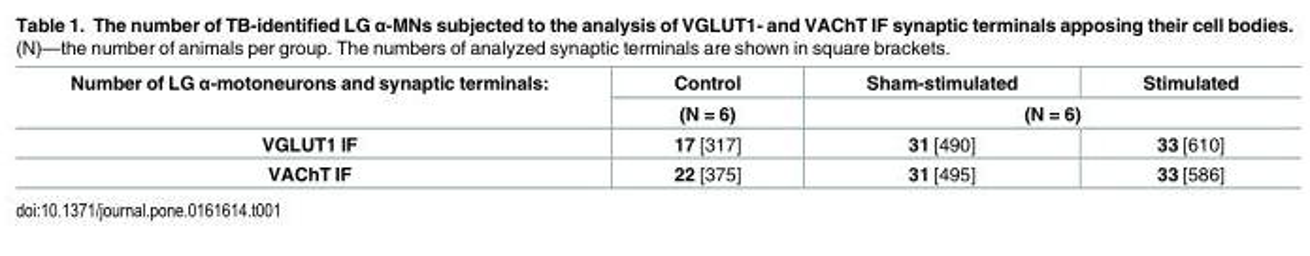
<table><thead><tr><td rowspan="2">Number of LG α-motoneurons and synaptic terminals:</td><td rowspan="2">Control (N = 6)</td><td>Sham-stimulated</td><td>Stimulated</td></tr><tr><td colspan="2">(N = 6)</td></tr></thead><tbody><tr><td>VGLUT1 IF</td><td>17 [317]</td><td>31 [490]</td><td>33 [610]</td></tr><tr><td>VAChT IF</td><td>22 [375]</td><td>31 [495]</td><td>33 [586]</td></tr></tbody></table>